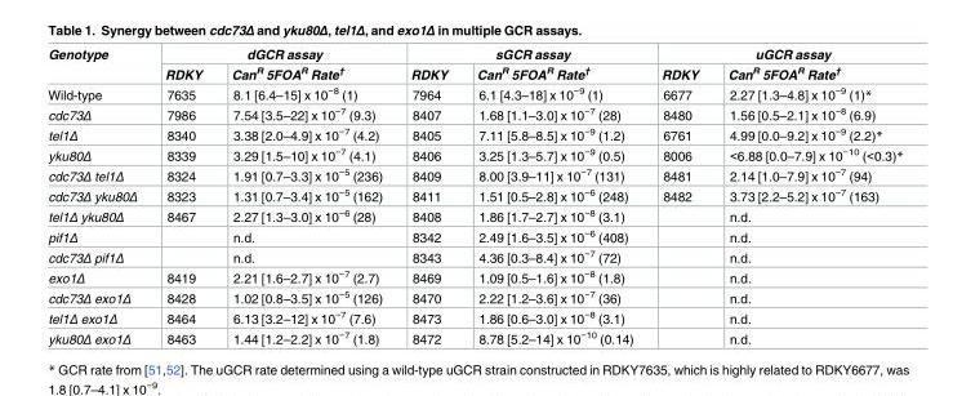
<table><thead><tr><td rowspan="2">Genotype</td><td colspan="2">dGCR assay</td><td colspan="2">sGCR assay</td><td colspan="2">uGCR assay</td></tr><tr><td>RDKY</td><td>Can<sup>R</sup> 5FOA<sup>R</sup> Rate<sup>†</sup></td><td>RDKY</td><td>Can<sup>R</sup> 5FOA<sup>R</sup> Rate<sup>†</sup></td><td>RDKY</td><td>Can<sup>R</sup> 5FOA<sup>R</sup> Rate<sup>†</sup></td></tr></thead><tbody><tr><td>Wild-type</td><td>7635</td><td>8.1 [6.4–15] x 10<sup>−8</sup> (1)</td><td>7964</td><td>6.1 [4.3–18] x 10<sup>−9</sup> (1)</td><td>6677</td><td>2.27 [1.3–4.8] x 10<sup>−9</sup> (1)*</td></tr><tr><td>cdc73Δ</td><td>7986</td><td>7.54 [3.5–22] x 10<sup>−7</sup> (9.3)</td><td>8407</td><td>1.68 [1.1–3.0] x 10<sup>−7</sup> (28)</td><td>8480</td><td>1.56 [0.5–2.1] x 10<sup>−8</sup> (6.9)</td></tr><tr><td>tel1Δ</td><td>8340</td><td>3.38 [2.0–4.9] x 10<sup>−7</sup> (4.2)</td><td>8405</td><td>7.11 [5.8–8.5] x 10<sup>−9</sup> (1.2)</td><td>6761</td><td>4.99 [0.0–9.2] x 10<sup>−9</sup> (2.2)*</td></tr><tr><td>yku80Δ</td><td>8339</td><td>3.29 [1.5–10] x 10<sup>−7</sup> (4.1)</td><td>8406</td><td>3.25 [1.3–5.7] x 10<sup>−9</sup> (0.5)</td><td>8006</td><td>&lt;6.88 [0.0–7.9] x 10<sup>−10</sup> (&lt;0.3)*</td></tr><tr><td>cdc73Δ tel1Δ</td><td>8324</td><td>1.91 [0.7–3.3] x 10<sup>−5</sup> (236)</td><td>8409</td><td>8.00 [3.9–11] x 10<sup>−7</sup> (131)</td><td>8481</td><td>2.14 [1.0–7.9] x 10<sup>−7</sup> (94)</td></tr><tr><td>cdc73Δ yku80Δ</td><td>8323</td><td>1.31 [0.7–3.4] x 10<sup>−5</sup> (162)</td><td>8411</td><td>1.51 [0.5–2.8] x 10<sup>−6</sup> (248)</td><td>8482</td><td>3.73 [2.2–5.2] x 10<sup>−7</sup> (163)</td></tr><tr><td>tel1Δ yku80Δ</td><td>8467</td><td>2.27 [1.3–3.0] x 10<sup>−6</sup> (28)</td><td>8408</td><td>1.86 [1.7–2.7] x 10<sup>−8</sup> (3.1)</td><td></td><td>n.d.</td></tr><tr><td>pif1Δ</td><td></td><td>n.d.</td><td>8342</td><td>2.49 [1.6–3.5] x 10<sup>−6</sup> (408)</td><td></td><td>n.d.</td></tr><tr><td>cdc73Δ pif1Δ</td><td></td><td>n.d.</td><td>8343</td><td>4.36 [0.3–8.4] x 10<sup>−7</sup> (72)</td><td></td><td>n.d.</td></tr><tr><td>exo1Δ</td><td>8419</td><td>2.21 [1.6–2.7] x 10<sup>−7</sup> (2.7)</td><td>8469</td><td>1.09 [0.5–1.6] x 10<sup>−8</sup> (1.8)</td><td></td><td>n.d.</td></tr><tr><td>cdc73Δ exo1Δ</td><td>8428</td><td>1.02 [0.8–3.5] x 10<sup>−5</sup> (126)</td><td>8470</td><td>2.22 [1.2–3.6] x 10<sup>−7</sup> (36)</td><td></td><td>n.d.</td></tr><tr><td>tel1Δ exo1Δ</td><td>8464</td><td>6.13 [3.2–12] x 10<sup>−7</sup> (7.6)</td><td>8473</td><td>1.86 [0.6–3.0] x 10<sup>−8</sup> (3.1)</td><td></td><td>n.d.</td></tr><tr><td>yku80Δ exo1Δ</td><td>8463</td><td>1.44 [1.2–2.2] x 10<sup>−7</sup> (1.8)</td><td>8472</td><td>8.78 [5.2–14] x 10<sup>−10</sup> (0.14)</td><td></td><td>n.d.</td></tr></tbody></table>